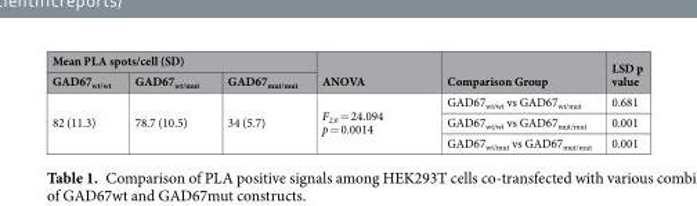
<table><thead><tr><td colspan="3">Mean PLA spots/cell (SD)</td><td rowspan="2">ANOVA</td><td rowspan="2">Comparison Group</td><td rowspan="2">LSD p value</td></tr><tr><td>GAD67<sub>wt/wt</sub></td><td>GAD67<sub>wt/mut</sub></td><td>GAD67<sub>mut/mut</sub></td></tr></thead><tbody><tr><td rowspan="3">82 (11.3)</td><td rowspan="3">78.7 (10.5)</td><td rowspan="3">34 (5.7)</td><td rowspan="3">F<sub>2,6</sub> = 24.094 p = 0.0014</td><td>GAD67<sub>wt/wt</sub> vs GAD67<sub>wt/mut</sub></td><td>0.681</td></tr><tr><td>GAD67<sub>wt/wt</sub> vs GAD67<sub>mut/mut</sub></td><td>0.001</td></tr><tr><td>GAD67<sub>wt/mut</sub> vs GAD67<sub>mut/mut</sub></td><td>0.001</td></tr></tbody></table>